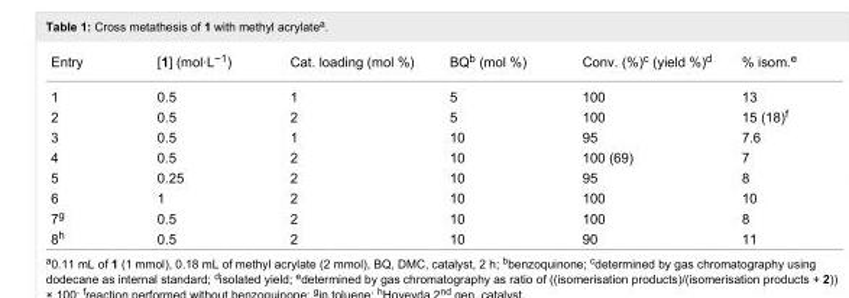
<table><tbody><tr><td>Entry</td><td>[1] (mol·L<sup>−1</sup>)</td><td>Cat. loading (mol %)</td><td>BQ<sup>b</sup> (mol %)</td><td>Conv. (%)<sup>c</sup> (yield %)<sup>d</sup></td><td>% isom.<sup>e</sup></td></tr><tr><td>1</td><td>0.5</td><td>1</td><td>5</td><td>100</td><td>13</td></tr><tr><td>2</td><td>0.5</td><td>2</td><td>5</td><td>100</td><td>15 (18)<sup>f</sup></td></tr><tr><td>3</td><td>0.5</td><td>1</td><td>10</td><td>95</td><td>7.6</td></tr><tr><td>4</td><td>0.5</td><td>2</td><td>10</td><td>100 (69)</td><td>7</td></tr><tr><td>5</td><td>0.25</td><td>2</td><td>10</td><td>95</td><td>8</td></tr><tr><td>6</td><td>1</td><td>2</td><td>10</td><td>100</td><td>10</td></tr><tr><td>7<sup>g</sup></td><td>0.5</td><td>2</td><td>10</td><td>100</td><td>8</td></tr><tr><td>8<sup>h</sup></td><td>0.5</td><td>2</td><td>10</td><td>90</td><td>11</td></tr></tbody></table>